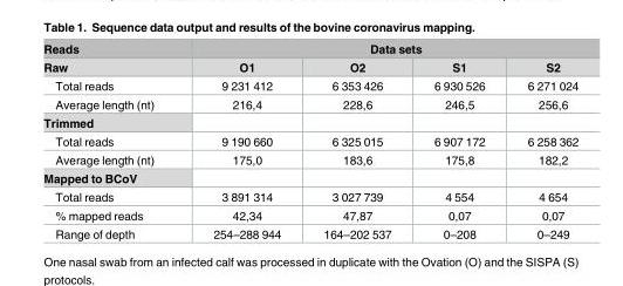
<table><thead><tr><td rowspan="2">Reads Raw</td><td colspan="4">Data sets</td></tr><tr><td>O1</td><td>O2</td><td>S1</td><td>S2</td></tr></thead><tbody><tr><td>Total reads</td><td>9 231 412</td><td>6 353 426</td><td>6 930 526</td><td>6 271 024</td></tr><tr><td>Average length (nt)</td><td>216,4</td><td>228,6</td><td>246,5</td><td>256,6</td></tr><tr><td colspan="5">Trimmed</td></tr><tr><td>Total reads</td><td>9 190 660</td><td>6 325 015</td><td>6 907 172</td><td>6 258 362</td></tr><tr><td>Average length (nt)</td><td>175,0</td><td>183,6</td><td>175,8</td><td>182,2</td></tr><tr><td colspan="5">Mapped to BCoV</td></tr><tr><td>Total reads</td><td>3 891 314</td><td>3 027 739</td><td>4 554</td><td>4 654</td></tr><tr><td>% mapped reads</td><td>42,34</td><td>47,87</td><td>0,07</td><td>0,07</td></tr><tr><td>Range of depth</td><td>254–288 944</td><td>164–202 537</td><td>0–208</td><td>0–249</td></tr></tbody></table>